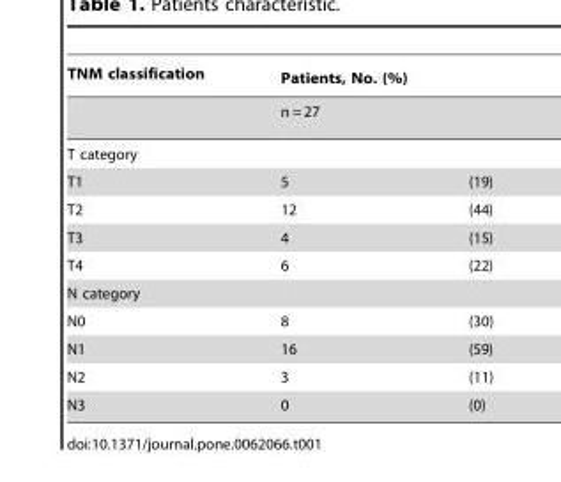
<table><thead><tr><td rowspan="3">TNM classification T category</td><td rowspan="2" colspan="2">Patients, No. (%) n = 27</td></tr><tr></tr><tr><td></td><td></td></tr></thead><tbody><tr><td>T1</td><td>5</td><td>(19)</td></tr><tr><td>T2</td><td>12</td><td>(44)</td></tr><tr><td>T3</td><td>4</td><td>(15)</td></tr><tr><td>T4</td><td>6</td><td>(22)</td></tr><tr><td colspan="3">N category</td></tr><tr><td>N0</td><td>8</td><td>(30)</td></tr><tr><td>N1</td><td>16</td><td>(59)</td></tr><tr><td>N2</td><td>3</td><td>(11)</td></tr><tr><td>N3</td><td>0</td><td>(0)</td></tr></tbody></table>